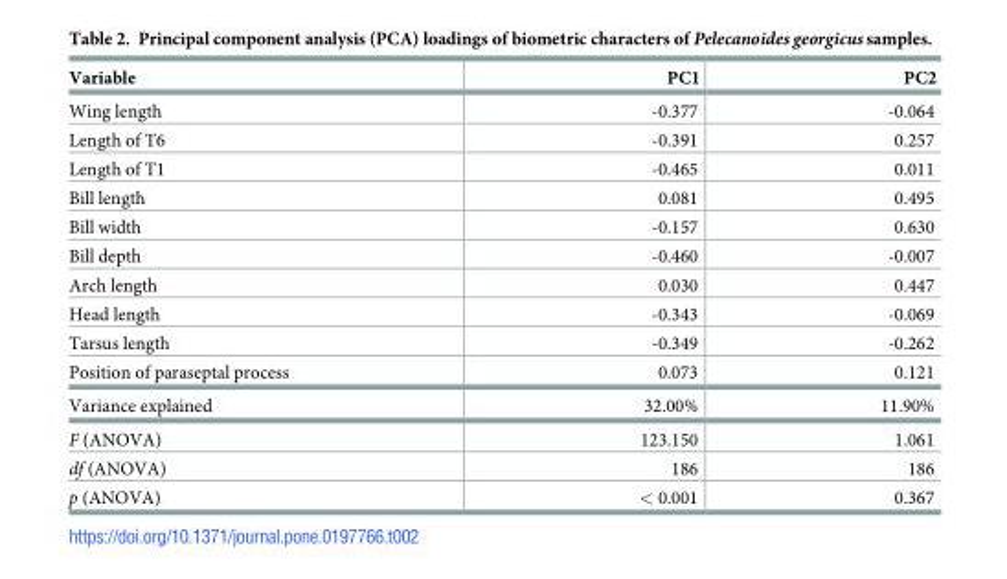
<table><thead><tr><td>Variable</td><td>PC1</td><td>PC2</td></tr></thead><tbody><tr><td>Wing length</td><td>-0.377</td><td>-0.064</td></tr><tr><td>Length of T6</td><td>-0.391</td><td>0.257</td></tr><tr><td>Length of T1</td><td>-0.465</td><td>0.011</td></tr><tr><td>Bill length</td><td>0.081</td><td>0.495</td></tr><tr><td>Bill width</td><td>-0.157</td><td>0.630</td></tr><tr><td>Bill depth</td><td>-0.460</td><td>-0.007</td></tr><tr><td>Arch length</td><td>0.030</td><td>0.447</td></tr><tr><td>Head length</td><td>-0.343</td><td>-0.069</td></tr><tr><td>Tarsus length</td><td>-0.349</td><td>-0.262</td></tr><tr><td>Position of paraseptal process</td><td>0.073</td><td>0.121</td></tr><tr><td>Variance explained</td><td>32.00%</td><td>11.90%</td></tr><tr><td>F (ANOVA)</td><td>123.150</td><td>1.061</td></tr><tr><td>df (ANOVA)</td><td>186</td><td>186</td></tr><tr><td>p (ANOVA)</td><td>&lt; 0.001</td><td>0.367</td></tr></tbody></table>